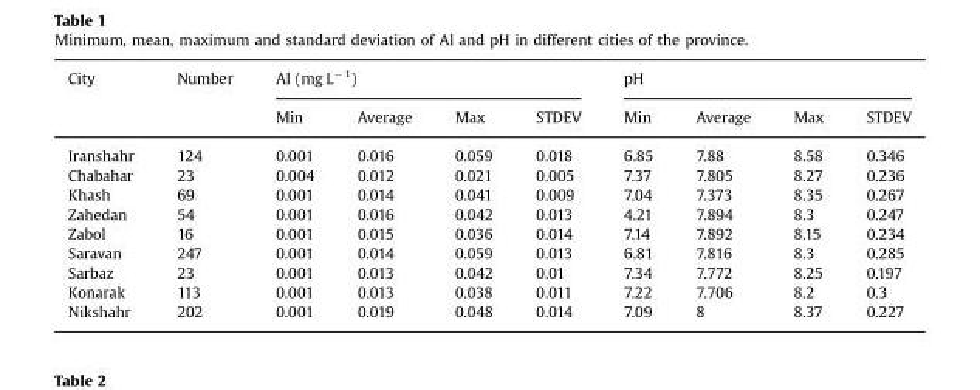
<table><thead><tr><td rowspan="2">City</td><td rowspan="2">Number</td><td colspan="4">Al (mg L<sup>−1</sup>)</td><td colspan="4">pH</td></tr><tr><td>Min</td><td>Average</td><td>Max</td><td>STDEV</td><td>Min</td><td>Average</td><td>Max</td><td>STDEV</td></tr></thead><tbody><tr><td>Iranshahr</td><td>124</td><td>0.001</td><td>0.016</td><td>0.059</td><td>0.018</td><td>6.85</td><td>7.88</td><td>8.58</td><td>0.346</td></tr><tr><td>Chabahar</td><td>23</td><td>0.004</td><td>0.012</td><td>0.021</td><td>0.005</td><td>7.37</td><td>7.805</td><td>8.27</td><td>0.236</td></tr><tr><td>Khash</td><td>69</td><td>0.001</td><td>0.014</td><td>0.041</td><td>0.009</td><td>7.04</td><td>7.373</td><td>8.35</td><td>0.267</td></tr><tr><td>Zahedan</td><td>54</td><td>0.001</td><td>0.016</td><td>0.042</td><td>0.013</td><td>4.21</td><td>7.894</td><td>8.3</td><td>0.247</td></tr><tr><td>Zabol</td><td>16</td><td>0.001</td><td>0.015</td><td>0.036</td><td>0.014</td><td>7.14</td><td>7.892</td><td>8.15</td><td>0.234</td></tr><tr><td>Saravan</td><td>247</td><td>0.001</td><td>0.014</td><td>0.059</td><td>0.013</td><td>6.81</td><td>7.816</td><td>8.3</td><td>0.285</td></tr><tr><td>Sarbaz</td><td>23</td><td>0.001</td><td>0.013</td><td>0.042</td><td>0.01</td><td>7.34</td><td>7.772</td><td>8.25</td><td>0.197</td></tr><tr><td>Konarak</td><td>113</td><td>0.001</td><td>0.013</td><td>0.038</td><td>0.011</td><td>7.22</td><td>7.706</td><td>8.2</td><td>0.3</td></tr><tr><td>Nikshahr</td><td>202</td><td>0.001</td><td>0.019</td><td>0.048</td><td>0.014</td><td>7.09</td><td>8</td><td>8.37</td><td>0.227</td></tr></tbody></table>